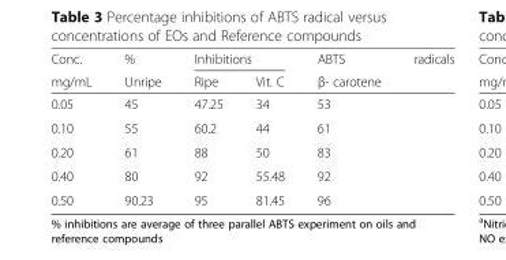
<table><thead><tr><td rowspan="2">Conc. mg/mL</td><td rowspan="2">% Unripe</td><td colspan="2">Inhibitions</td><td rowspan="2">ABTS β- carotene</td><td rowspan="2">radicals</td></tr><tr><td>Ripe</td><td>Vit. C</td></tr></thead><tbody><tr><td>0.05</td><td>45</td><td>47.25</td><td>34</td><td>53</td><td></td></tr><tr><td>0.10</td><td>55</td><td>60.2</td><td>44</td><td>61</td><td></td></tr><tr><td>0.20</td><td>61</td><td>88</td><td>50</td><td>83</td><td></td></tr><tr><td>0.40</td><td>80</td><td>92</td><td>55.48</td><td>92</td><td></td></tr><tr><td>0.50</td><td>90.23</td><td>95</td><td>81.45</td><td>96</td><td></td></tr></tbody></table>